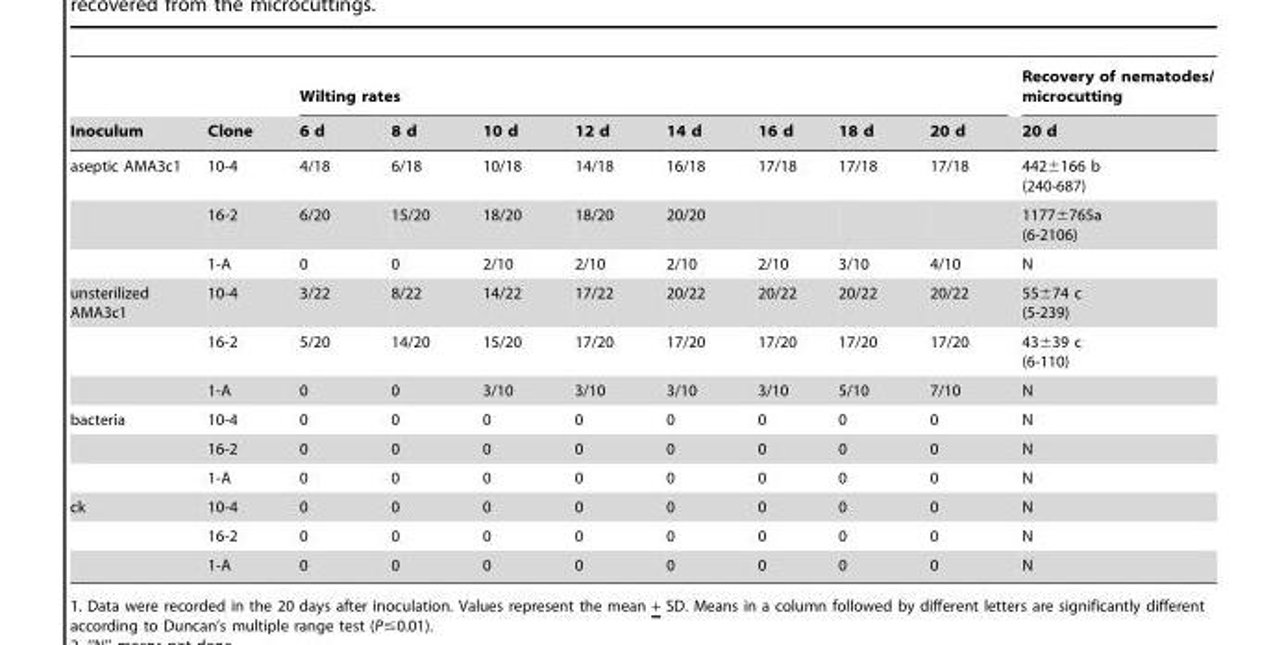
<table><thead><tr><td rowspan="2">Inoculum</td><td rowspan="2">Clone</td><td colspan="8">Wilting rates</td><td rowspan="2">Recovery of nematodes/ microcutting 20 d</td></tr><tr><td>6 d</td><td>8 d</td><td>10 d</td><td>12 d</td><td>14 d</td><td>16 d</td><td>18 d</td><td>20 d</td></tr></thead><tbody><tr><td rowspan="3">aseptic AMA3c1</td><td>10-4</td><td>4/18</td><td>6/18</td><td>10/18</td><td>14/18</td><td>16/18</td><td>17/18</td><td>17/18</td><td>17/18</td><td>442±166 b (240-687)</td></tr><tr><td>16-2</td><td>6/20</td><td>15/20</td><td>18/20</td><td>18/20</td><td>20/20</td><td></td><td></td><td></td><td>1177±765a (6-2106)</td></tr><tr><td>1-A</td><td>0</td><td>0</td><td>2/10</td><td>2/10</td><td>2/10</td><td>2/10</td><td>3/10</td><td>4/10</td><td>N</td></tr><tr><td rowspan="3">unsterilized AMA3c1</td><td>10-4</td><td>3/22</td><td>8/22</td><td>14/22</td><td>17/22</td><td>20/22</td><td>20/22</td><td>20/22</td><td>20/22</td><td>55±74 c (5-239)</td></tr><tr><td>16-2</td><td>5/20</td><td>14/20</td><td>15/20</td><td>17/20</td><td>17/20</td><td>17/20</td><td>17/20</td><td>17/20</td><td>43±39 c (6-110)</td></tr><tr><td>1-A</td><td>0</td><td>0</td><td>3/10</td><td>3/10</td><td>3/10</td><td>3/10</td><td>5/10</td><td>7/10</td><td>N</td></tr><tr><td rowspan="3">bacteria</td><td>10-4</td><td>0</td><td>0</td><td>0</td><td>0</td><td>0</td><td>0</td><td>0</td><td>0</td><td>N</td></tr><tr><td>16-2</td><td>0</td><td>0</td><td>0</td><td>0</td><td>0</td><td>0</td><td>0</td><td>0</td><td>N</td></tr><tr><td>1-A</td><td>0</td><td>0</td><td>0</td><td>0</td><td>0</td><td>0</td><td>0</td><td>0</td><td>N</td></tr><tr><td rowspan="3">ck</td><td>10-4</td><td>0</td><td>0</td><td>0</td><td>0</td><td>0</td><td>0</td><td>0</td><td>0</td><td>N</td></tr><tr><td>16-2</td><td>0</td><td>0</td><td>0</td><td>0</td><td>0</td><td>0</td><td>0</td><td>0</td><td>N</td></tr><tr><td>1-A</td><td>0</td><td>0</td><td>0</td><td>0</td><td>0</td><td>0</td><td>0</td><td>0</td><td>N</td></tr></tbody></table>